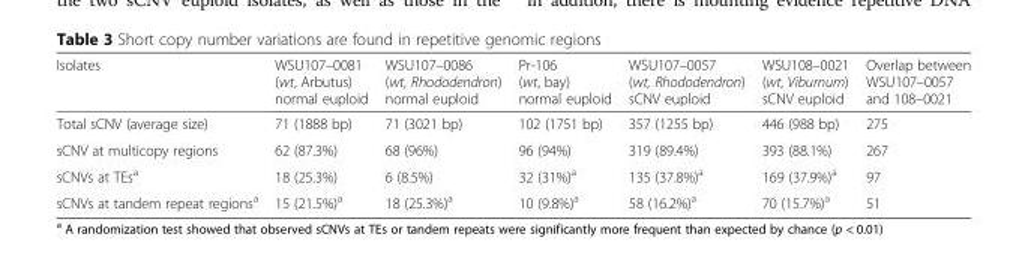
<table><thead><tr><td>Isolates</td><td>WSU107–0081 (wt, Arbutus) normal euploid</td><td>WSU107–0086 (wt, Rhododendron) normal euploid</td><td>Pr-106 (wt, bay) normal euploid</td><td>WSU107–0057 (wt, Rhododendron) sCNV euploid</td><td>WSU108–0021 (wt, Viburnum) sCNV euploid</td><td>Overlap between WSU107–0057 and 108–0021</td></tr></thead><tbody><tr><td>Total sCNV (average size)</td><td>71 (1888 bp)</td><td>71 (3021 bp)</td><td>102 (1751 bp)</td><td>357 (1255 bp)</td><td>446 (988 bp)</td><td>275</td></tr><tr><td>sCNV at multicopy regions</td><td>62 (87.3%)</td><td>68 (96%)</td><td>96 (94%)</td><td>319 (89.4%)</td><td>393 (88.1%)</td><td>267</td></tr><tr><td>sCNVs at TEs<sup>a</sup></td><td>18 (25.3%)</td><td>6 (8.5%)</td><td>32 (31%)<sup>a</sup></td><td>135 (37.8%)<sup>a</sup></td><td>169 (37.9%)<sup>a</sup></td><td>97</td></tr><tr><td>sCNVs at tandem repeat regions<sup>a</sup></td><td>15 (21.5%)<sup>a</sup></td><td>18 (25.3%)<sup>a</sup></td><td>10 (9.8%)<sup>a</sup></td><td>58 (16.2%)<sup>a</sup></td><td>70 (15.7%)<sup>a</sup></td><td>51</td></tr></tbody></table>